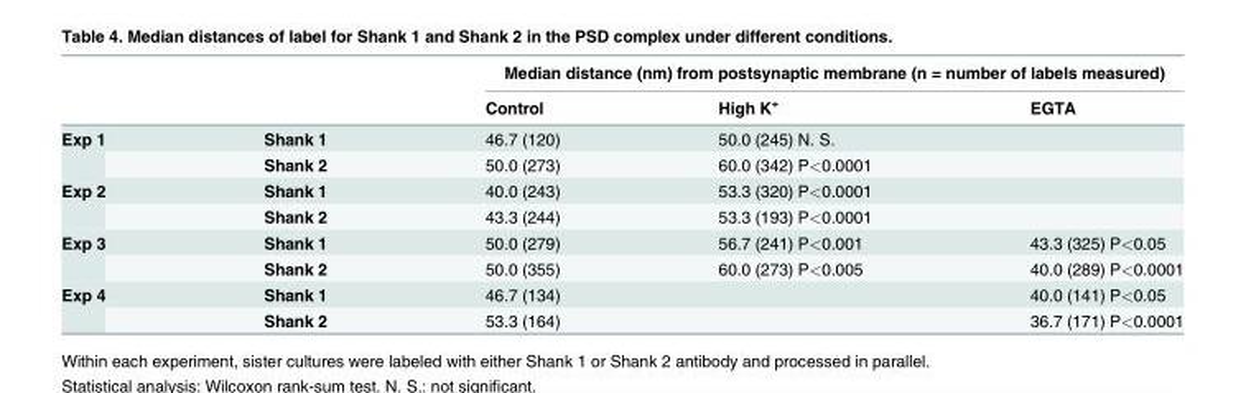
<table><thead><tr><td rowspan="2"></td><td rowspan="2"></td><td colspan="3">Median distance (nm) from postsynaptic membrane (n = number of labels measured)</td></tr><tr><td>Control</td><td>High K<sup>+</sup></td><td>EGTA</td></tr></thead><tbody><tr><td rowspan="2">Exp 1</td><td>Shank 1</td><td>46.7 (120)</td><td>50.0 (245) N. S.</td><td></td></tr><tr><td>Shank 2</td><td>50.0 (273)</td><td>60.0 (342) P&lt;0.0001</td><td></td></tr><tr><td rowspan="2">Exp 2</td><td>Shank 1</td><td>40.0 (243)</td><td>53.3 (320) P&lt;0.0001</td><td></td></tr><tr><td>Shank 2</td><td>43.3 (244)</td><td>53.3 (193) P&lt;0.0001</td><td></td></tr><tr><td rowspan="2">Exp 3</td><td>Shank 1</td><td>50.0 (279)</td><td>56.7 (241) P&lt;0.001</td><td>43.3 (325) P&lt;0.05</td></tr><tr><td>Shank 2</td><td>50.0 (355)</td><td>60.0 (273) P&lt;0.005</td><td>40.0 (289) P&lt;0.0001</td></tr><tr><td rowspan="2">Exp 4</td><td>Shank 1</td><td>46.7 (134)</td><td></td><td>40.0 (141) P&lt;0.05</td></tr><tr><td>Shank 2</td><td>53.3 (164)</td><td></td><td>36.7 (171) P&lt;0.0001</td></tr></tbody></table>